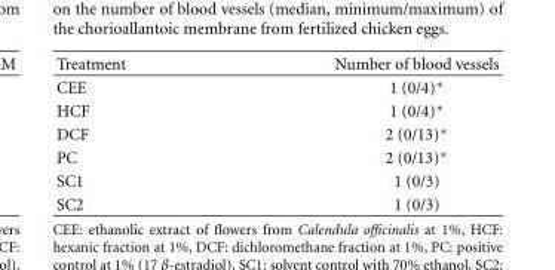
<table><thead><tr><td>Treatment</td><td>Number of blood vessels</td></tr></thead><tbody><tr><td>CEE</td><td>1 (0/4)∗</td></tr><tr><td>HCF</td><td>1 (0/4)∗</td></tr><tr><td>DCF</td><td>2 (0/13)∗</td></tr><tr><td>PC</td><td>2 (0/13)∗</td></tr><tr><td>SC1</td><td>1 (0/3)</td></tr><tr><td>SC2</td><td>1 (0/3)</td></tr></tbody></table>